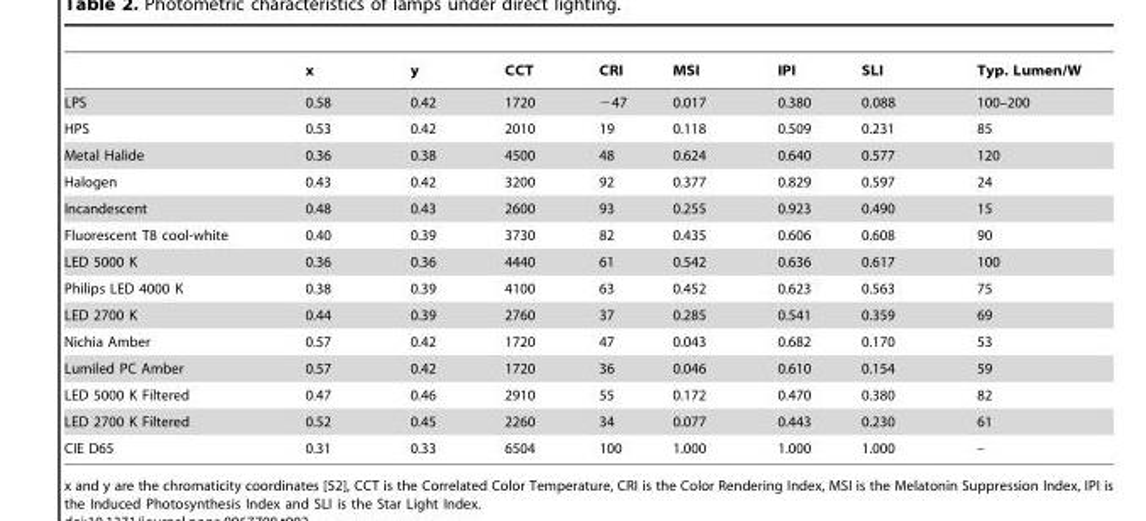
<table><thead><tr><td></td><td>x</td><td>y</td><td>CCT</td><td>CRI</td><td>MSI</td><td>IPI</td><td>SLI</td><td>Typ. Lumen/W</td></tr></thead><tbody><tr><td>LPS</td><td>0.58</td><td>0.42</td><td>1720</td><td>−47</td><td>0.017</td><td>0.380</td><td>0.088</td><td>100–200</td></tr><tr><td>HPS</td><td>0.53</td><td>0.42</td><td>2010</td><td>19</td><td>0.118</td><td>0.509</td><td>0.231</td><td>85</td></tr><tr><td>Metal Halide</td><td>0.36</td><td>0.38</td><td>4500</td><td>48</td><td>0.624</td><td>0.640</td><td>0.577</td><td>120</td></tr><tr><td>Halogen</td><td>0.43</td><td>0.42</td><td>3200</td><td>92</td><td>0.377</td><td>0.829</td><td>0.597</td><td>24</td></tr><tr><td>Incandescent</td><td>0.48</td><td>0.43</td><td>2600</td><td>93</td><td>0.255</td><td>0.923</td><td>0.490</td><td>15</td></tr><tr><td>Fluorescent T8 cool-white</td><td>0.40</td><td>0.39</td><td>3730</td><td>82</td><td>0.435</td><td>0.606</td><td>0.608</td><td>90</td></tr><tr><td>LED 5000 K</td><td>0.36</td><td>0.36</td><td>4440</td><td>61</td><td>0.542</td><td>0.636</td><td>0.617</td><td>100</td></tr><tr><td>Philips LED 4000 K</td><td>0.38</td><td>0.39</td><td>4100</td><td>63</td><td>0.452</td><td>0.623</td><td>0.563</td><td>75</td></tr><tr><td>LED 2700 K</td><td>0.44</td><td>0.39</td><td>2760</td><td>37</td><td>0.285</td><td>0.541</td><td>0.359</td><td>69</td></tr><tr><td>Nichia Amber</td><td>0.57</td><td>0.42</td><td>1720</td><td>47</td><td>0.043</td><td>0.682</td><td>0.170</td><td>53</td></tr><tr><td>Lumiled PC Amber</td><td>0.57</td><td>0.42</td><td>1720</td><td>36</td><td>0.046</td><td>0.610</td><td>0.154</td><td>59</td></tr><tr><td>LED 5000 K Filtered</td><td>0.47</td><td>0.46</td><td>2910</td><td>55</td><td>0.172</td><td>0.470</td><td>0.380</td><td>82</td></tr><tr><td>LED 2700 K Filtered</td><td>0.52</td><td>0.45</td><td>2260</td><td>34</td><td>0.077</td><td>0.443</td><td>0.230</td><td>61</td></tr><tr><td>CIE D65</td><td>0.31</td><td>0.33</td><td>6504</td><td>100</td><td>1.000</td><td>1.000</td><td>1.000</td><td>–</td></tr></tbody></table>